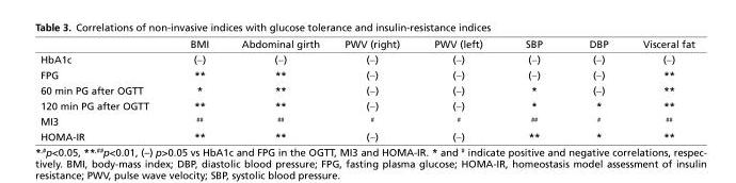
<table><thead><tr><td></td><td>BMI</td><td>Abdominal girth</td><td>PWV (right)</td><td>PWV (left)</td><td>SBP</td><td>DBP</td><td>Visceral fat</td></tr></thead><tbody><tr><td>HbA1c</td><td>(−)</td><td>(−)</td><td>(−)</td><td>(−)</td><td>(−)</td><td>(−)</td><td>(−)</td></tr><tr><td>FPG</td><td>**</td><td>**</td><td>(−)</td><td>(−)</td><td>(−)</td><td>(−)</td><td>**</td></tr><tr><td>60 min PG after OGTT</td><td>*</td><td>**</td><td>(−)</td><td>(−)</td><td>*</td><td>(−)</td><td>**</td></tr><tr><td>120 min PG after OGTT</td><td>**</td><td>**</td><td>(−)</td><td>(−)</td><td>*</td><td>*</td><td>**</td></tr><tr><td>MI3</td><td><sup>##</sup></td><td><sup>##</sup></td><td><sup>#</sup></td><td><sup>#</sup></td><td><sup>##</sup></td><td><sup>#</sup></td><td><sup>##</sup></td></tr><tr><td>HOMA-IR</td><td>**</td><td>**</td><td>(−)</td><td>(−)</td><td>**</td><td>*</td><td>**</td></tr></tbody></table>